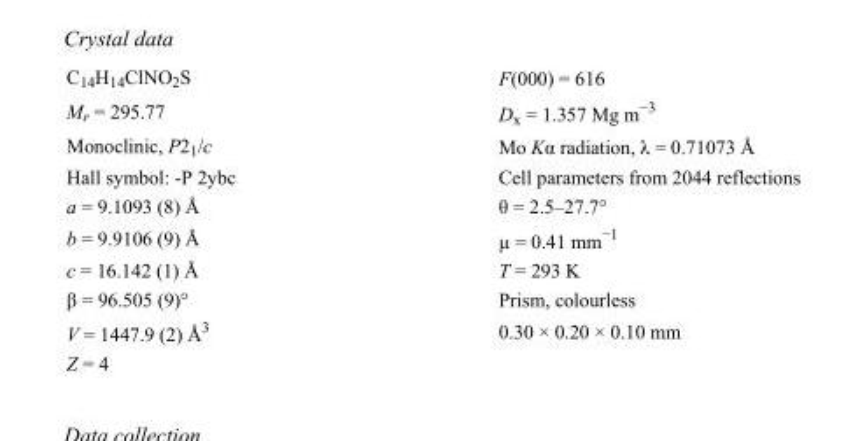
<table><tbody><tr><td>C<sub>14</sub>H<sub>14</sub>ClNO<sub>2</sub>S</td><td>F(000) = 616</td></tr><tr><td>M<sub>r</sub> = 295.77</td><td>D<sub>x</sub> = 1.357 Mg m<sup>−3</sup></td></tr><tr><td>Monoclinic, P2<sub>1</sub>/c</td><td>Mo Kα radiation, λ = 0.71073 Å</td></tr><tr><td>Hall symbol: -P 2ybc</td><td>Cell parameters from 2044 reflections</td></tr><tr><td>a = 9.1093 (8) Å</td><td>θ = 2.5–27.7°</td></tr><tr><td>b = 9.9106 (9) Å</td><td>µ = 0.41 mm<sup>−1</sup></td></tr><tr><td>c = 16.142 (1) Å</td><td>T = 293 K</td></tr><tr><td>β = 96.505 (9)°</td><td>Prism, colourless</td></tr><tr><td>V = 1447.9 (2) Å<sup>3</sup></td><td>0.30 × 0.20 × 0.10 mm</td></tr><tr><td>Z = 4</td><td></td></tr></tbody></table>